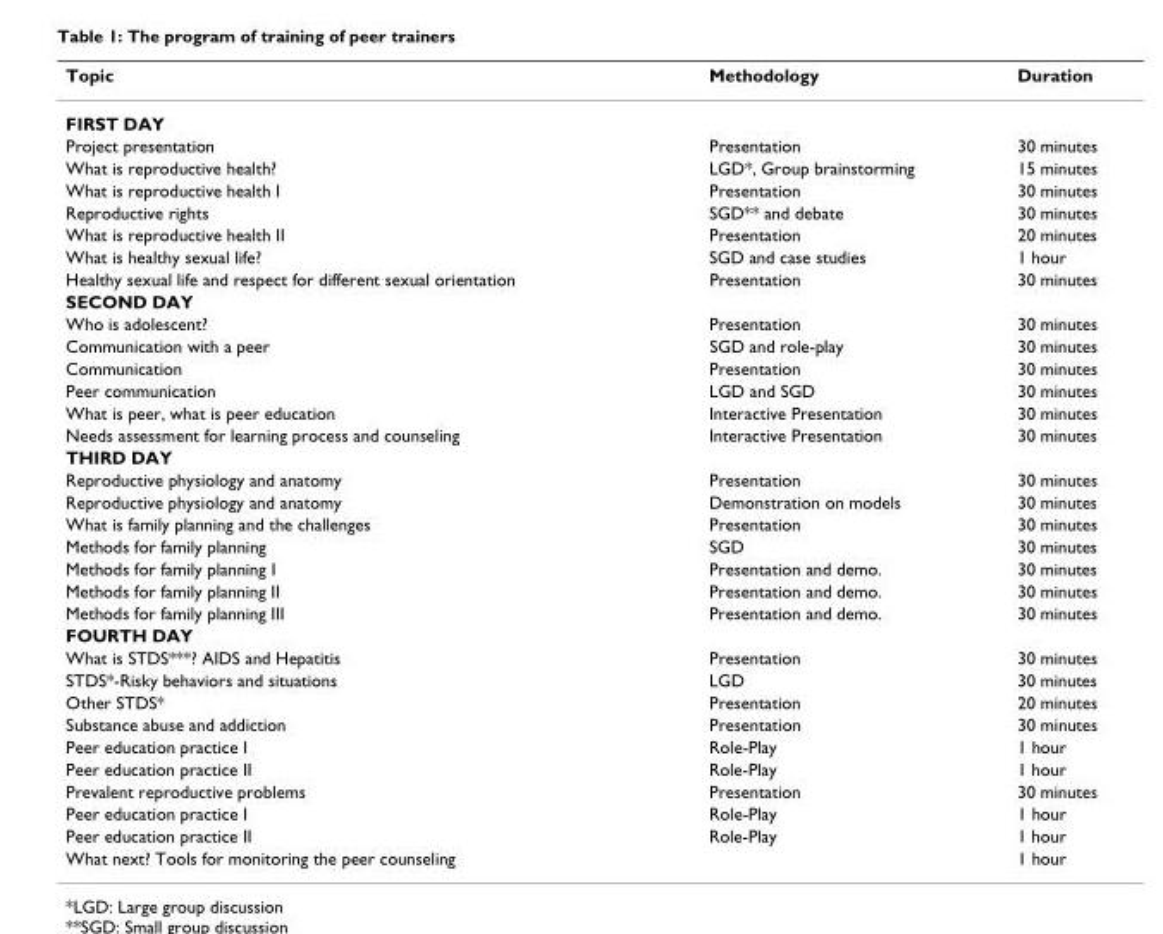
<table><thead><tr><td>Topic</td><td>Methodology</td><td>Duration</td></tr></thead><tbody><tr><td colspan="3">FIRST DAY</td></tr><tr><td>Project presentation</td><td>Presentation</td><td>30 minutes</td></tr><tr><td>What is reproductive health?</td><td>LGD*, Group brainstorming</td><td>15 minutes</td></tr><tr><td>What is reproductive health I</td><td>Presentation</td><td>30 minutes</td></tr><tr><td>Reproductive rights</td><td>SGD** and debate</td><td>30 minutes</td></tr><tr><td>What is reproductive health II</td><td>Presentation</td><td>20 minutes</td></tr><tr><td>What is healthy sexual life?</td><td>SGD and case studies</td><td>1 hour</td></tr><tr><td>Healthy sexual life and respect for different sexual orientation</td><td>Presentation</td><td>30 minutes</td></tr><tr><td colspan="3">SECOND DAY</td></tr><tr><td>Who is adolescent?</td><td>Presentation</td><td>30 minutes</td></tr><tr><td>Communication with a peer</td><td>SGD and role-play</td><td>30 minutes</td></tr><tr><td>Communication</td><td>Presentation</td><td>30 minutes</td></tr><tr><td>Peer communication</td><td>LGD and SGD</td><td>30 minutes</td></tr><tr><td>What is peer, what is peer education</td><td>Interactive Presentation</td><td>30 minutes</td></tr><tr><td>Needs assessment for learning process and counseling</td><td>Interactive Presentation</td><td>30 minutes</td></tr><tr><td colspan="3">THIRD DAY</td></tr><tr><td>Reproductive physiology and anatomy</td><td>Presentation</td><td>30 minutes</td></tr><tr><td>Reproductive physiology and anatomy</td><td>Demonstration on models</td><td>30 minutes</td></tr><tr><td>What is family planning and the challenges</td><td>Presentation</td><td>30 minutes</td></tr><tr><td>Methods for family planning</td><td>SGD</td><td>30 minutes</td></tr><tr><td>Methods for family planning I</td><td>Presentation and demo.</td><td>30 minutes</td></tr><tr><td>Methods for family planning II</td><td>Presentation and demo.</td><td>30 minutes</td></tr><tr><td>Methods for family planning III</td><td>Presentation and demo.</td><td>30 minutes</td></tr><tr><td colspan="3">FOURTH DAY</td></tr><tr><td>What is STDS***? AIDS and Hepatitis</td><td>Presentation</td><td>30 minutes</td></tr><tr><td>STDS*-Risky behaviors and situations</td><td>LGD</td><td>30 minutes</td></tr><tr><td>Other STDS*</td><td>Presentation</td><td>20 minutes</td></tr><tr><td>Substance abuse and addiction</td><td>Presentation</td><td>30 minutes</td></tr><tr><td>Peer education practice I</td><td>Role-Play</td><td>1 hour</td></tr><tr><td>Peer education practice II</td><td>Role-Play</td><td>1 hour</td></tr><tr><td>Prevalent reproductive problems</td><td>Presentation</td><td>30 minutes</td></tr><tr><td>Peer education practice I</td><td>Role-Play</td><td>1 hour</td></tr><tr><td>Peer education practice II</td><td>Role-Play</td><td>1 hour</td></tr><tr><td>What next? Tools for monitoring the peer counseling</td><td></td><td>1 hour</td></tr></tbody></table>